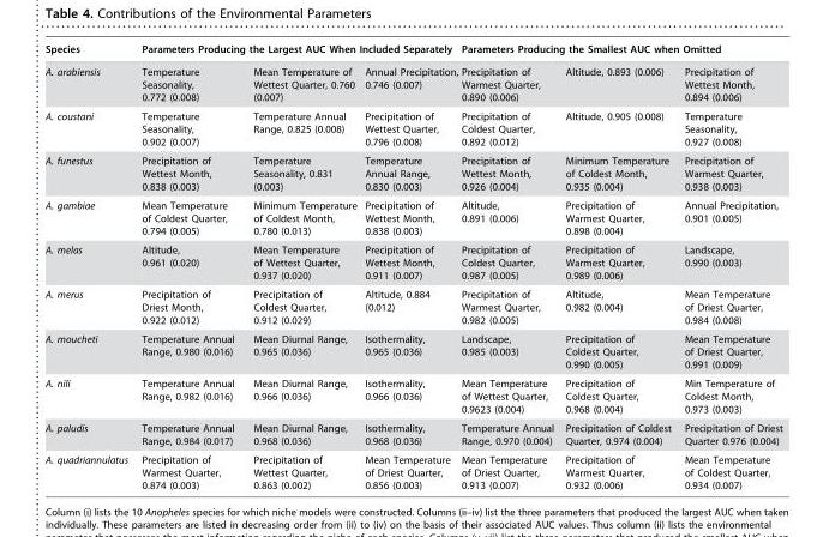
<table><thead><tr><td rowspan="2">Species A. arabiensis</td><td colspan="3">Parameters Producing the Largest AUC When Included Separately</td><td colspan="3">Parameters Producing the Smallest AUC when Omitted</td></tr><tr><td>Temperature Seasonality, 0.772 (0.008)</td><td>Mean Temperature of Wettest Quarter, 0.760 (0.007)</td><td>Annual Precipitation, 0.746 (0.007)</td><td>Precipitation of Warmest Quarter, 0.890 (0.006)</td><td>Altitude, 0.893 (0.006)</td><td>Precipitation of Wettest Month, 0.894 (0.006)</td></tr></thead><tbody><tr><td>A. coustani</td><td>Temperature Seasonality, 0.902 (0.007)</td><td>Temperature Annual Range, 0.825 (0.008)</td><td>Precipitation of Wettest Quarter, 0.796 (0.008)</td><td>Precipitation of Coldest Quarter, 0.892 (0.012)</td><td>Altitude, 0.905 (0.008)</td><td>Temperature Seasonality, 0.927 (0.008)</td></tr><tr><td>A. funestus</td><td>Precipitation of Wettest Month, 0.838 (0.003)</td><td>Temperature Seasonality, 0.831 (0.003)</td><td>Temperature Annual Range, 0.830 (0.003)</td><td>Precipitation of Wettest Month, 0.926 (0.004)</td><td>Minimum Temperature of Coldest Month, 0.935 (0.004)</td><td>Precipitation of Warmest Quarter, 0.938 (0.003)</td></tr><tr><td>A. gambiae</td><td>Mean Temperature of Coldest Quarter, 0.794 (0.005)</td><td>Minimum Temperature of Coldest Month, 0.780 (0.013)</td><td>Precipitation of Wettest Month, 0.838 (0.003)</td><td>Altitude, 0.891 (0.006)</td><td>Precipitation of Warmest Quarter, 0.898 (0.004)</td><td>Annual Precipitation, 0.901 (0.005)</td></tr><tr><td>A. melas</td><td>Altitude, 0.961 (0.020)</td><td>Mean Temperature of Wettest Quarter, 0.937 (0.020)</td><td>Precipitation of Wettest Month, 0.911 (0.007)</td><td>Precipitation of Coldest Quarter, 0.987 (0.005)</td><td>Precipitation of Warmest Quarter, 0.989 (0.006)</td><td>Landscape, 0.990 (0.003)</td></tr><tr><td>A. merus</td><td>Precipitation of Driest Month, 0.922 (0.012)</td><td>Precipitation of Coldest Quarter, 0.912 (0.029)</td><td>Altitude, 0.884 (0.012)</td><td>Precipitation of Warmest Quarter, 0.982 (0.005)</td><td>Altitude, 0.982 (0.004)</td><td>Mean Temperature of Driest Quarter, 0.984 (0.008)</td></tr><tr><td>A. moucheti</td><td>Temperature Annual Range, 0.980 (0.016)</td><td>Mean Diurnal Range, 0.965 (0.036)</td><td>Isothermality, 0.965 (0.036)</td><td>Landscape, 0.985 (0.003)</td><td>Precipitation of Coldest Quarter, 0.990 (0.005)</td><td>Mean Temperature of Driest Quarter, 0.991 (0.009)</td></tr><tr><td>A. nili</td><td>Temperature Annual Range, 0.982 (0.016)</td><td>Mean Diurnal Range, 0.966 (0.036)</td><td>Isothermality, 0.966 (0.036)</td><td>Mean Temperature of Wettest Quarter, 0.9623 (0.004)</td><td>Precipitation of Coldest Quarter, 0.968 (0.004)</td><td>Min Temperature of Coldest Month, 0.973 (0.003)</td></tr><tr><td>A. paludis</td><td>Temperature Annual Range, 0.984 (0.017)</td><td>Mean Diurnal Range, 0.968 (0.036)</td><td>Isothermality, 0.968 (0.036)</td><td>Temperature Annual Range, 0.970 (0.004)</td><td>Precipitation of Coldest Quarter, 0.974 (0.004)</td><td>Precipitation of Driest Quarter 0.976 (0.004)</td></tr><tr><td>A. quadriannulatus</td><td>Precipitation of Warmest Quarter, 0.874 (0.003)</td><td>Precipitation of Wettest Quarter, 0.863 (0.002)</td><td>Mean Temperature of Driest Quarter, 0.856 (0.003)</td><td>Mean Temperature of Driest Quarter, 0.913 (0.007)</td><td>Precipitation of Warmest Quarter, 0.932 (0.006)</td><td>Mean Temperature of Coldest Quarter, 0.934 (0.007)</td></tr></tbody></table>